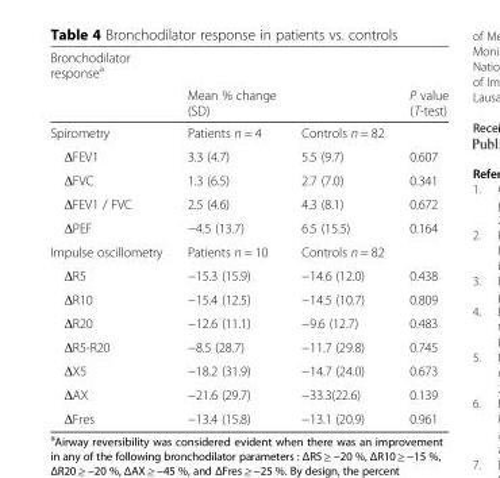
<table><thead><tr><td rowspan="2">Bronchodilator response<sup>a</sup></td><td rowspan="2">Mean % change (SD)</td><td rowspan="2"></td><td rowspan="2">P value (T-test)</td></tr><tr></tr></thead><tbody><tr><td>Spirometry</td><td>Patients n = 4</td><td>Controls n = 82</td><td></td></tr><tr><td>ΔFEV1</td><td>3.3 (4.7)</td><td>5.5 (9.7)</td><td>0.607</td></tr><tr><td>ΔFVC</td><td>1.3 (6.5)</td><td>2.7 (7.0)</td><td>0.341</td></tr><tr><td>ΔFEV1 / FVC</td><td>2.5 (4.6)</td><td>4.3 (8.1)</td><td>0.672</td></tr><tr><td>ΔPEF</td><td>−4.5 (13.7)</td><td>6.5 (15.5)</td><td>0.164</td></tr><tr><td>Impulse oscillometry</td><td>Patients n = 10</td><td>Controls n = 82</td><td></td></tr><tr><td>ΔR5</td><td>−15.3 (15.9)</td><td>−14.6 (12.0)</td><td>0.438</td></tr><tr><td>ΔR10</td><td>−15.4 (12.5)</td><td>−14.5 (10.7)</td><td>0.809</td></tr><tr><td>ΔR20</td><td>−12.6 (11.1)</td><td>−9.6 (12.7)</td><td>0.483</td></tr><tr><td>ΔR5-R20</td><td>−8.5 (28.7)</td><td>−11.7 (29.8)</td><td>0.745</td></tr><tr><td>ΔX5</td><td>−18.2 (31.9)</td><td>−14.7 (24.0)</td><td>0.673</td></tr><tr><td>ΔAX</td><td>−21.6 (29.7)</td><td>−33.3(22.6)</td><td>0.139</td></tr><tr><td>ΔFres</td><td>−13.4 (15.8)</td><td>−13.1 (20.9)</td><td>0.961</td></tr></tbody></table>